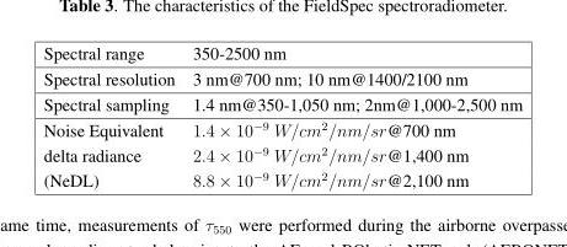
<table><tbody><tr><td>Spectral range</td><td>350-2500 nm</td></tr><tr><td>Spectral resolution</td><td>3 nm@700 nm; 10 nm@1400/2100 nm</td></tr><tr><td>Spectral sampling</td><td>1.4 nm@350-1,050 nm; 2nm@1,000-2,500 nm</td></tr><tr><td>Noise Equivalent delta radiance (NeDL)</td><td>1.4 × 10<sup>−9</sup> W/cm<sup>2</sup>/nm/sr@700 nm 2.4 × 10<sup>−9</sup> W/cm<sup>2</sup>/nm/sr@1,400 nm 8.8 × 10<sup>−9</sup> W/cm<sup>2</sup>/nm/sr@2,100 nm</td></tr></tbody></table>